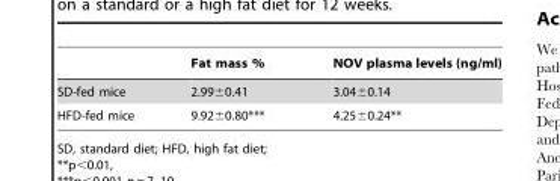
<table><thead><tr><td></td><td>Fat mass %</td><td>NOV plasma levels (ng/ml)</td></tr></thead><tbody><tr><td>SD-fed mice</td><td>2.99±0.41</td><td>3.04±0.14</td></tr><tr><td>HFD-fed mice</td><td>9.92±0.80***</td><td>4.25±0.24**</td></tr></tbody></table>